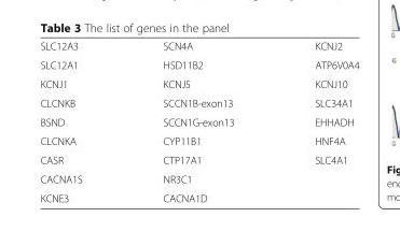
<table><tbody><tr><td>SLC12A3</td><td>SCN4A</td><td>KCNJ2</td></tr><tr><td>SLC12A1</td><td>HSD11B2</td><td>ATP6V0A4</td></tr><tr><td>KCNJ1</td><td>KCNJ5</td><td>KCNJ10</td></tr><tr><td>CLCNKB</td><td>SCCN1B-exon13</td><td>SLC34A1</td></tr><tr><td>BSND</td><td>SCCN1G-exon13</td><td>EHHADH</td></tr><tr><td>CLCNKA</td><td>CYP11B1</td><td>HNF4A</td></tr><tr><td>CASR</td><td>CTP17A1</td><td>SLC4A1</td></tr><tr><td>CACNA1S</td><td>NR3C1</td><td></td></tr><tr><td>KCNE3</td><td>CACNA1D</td><td></td></tr></tbody></table>